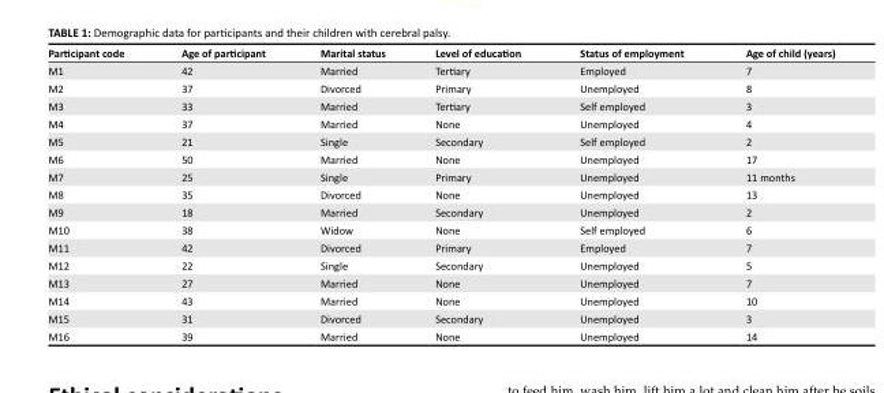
<table><thead><tr><td>Participant code</td><td>Age of participant</td><td>Marital status</td><td>Level of education</td><td>Status of employment</td><td>Age of child (years)</td></tr></thead><tbody><tr><td>M1</td><td>42</td><td>Married</td><td>Tertiary</td><td>Employed</td><td>7</td></tr><tr><td>M2</td><td>37</td><td>Divorced</td><td>Primary</td><td>Unemployed</td><td>8</td></tr><tr><td>M3</td><td>33</td><td>Married</td><td>Tertiary</td><td>Self employed</td><td>3</td></tr><tr><td>M4</td><td>37</td><td>Married</td><td>None</td><td>Unemployed</td><td>4</td></tr><tr><td>M5</td><td>21</td><td>Single</td><td>Secondary</td><td>Self employed</td><td>2</td></tr><tr><td>M6</td><td>50</td><td>Married</td><td>None</td><td>Unemployed</td><td>17</td></tr><tr><td>M7</td><td>25</td><td>Single</td><td>Primary</td><td>Unemployed</td><td>11 months</td></tr><tr><td>M8</td><td>35</td><td>Divorced</td><td>None</td><td>Unemployed</td><td>13</td></tr><tr><td>M9</td><td>18</td><td>Married</td><td>Secondary</td><td>Unemployed</td><td>2</td></tr><tr><td>M10</td><td>38</td><td>Widow</td><td>None</td><td>Self employed</td><td>6</td></tr><tr><td>M11</td><td>42</td><td>Divorced</td><td>Primary</td><td>Employed</td><td>7</td></tr><tr><td>M12</td><td>22</td><td>Single</td><td>Secondary</td><td>Unemployed</td><td>5</td></tr><tr><td>M13</td><td>27</td><td>Married</td><td>None</td><td>Unemployed</td><td>7</td></tr><tr><td>M14</td><td>43</td><td>Married</td><td>None</td><td>Unemployed</td><td>10</td></tr><tr><td>M15</td><td>31</td><td>Divorced</td><td>Secondary</td><td>Unemployed</td><td>3</td></tr><tr><td>M16</td><td>39</td><td>Married</td><td>None</td><td>Unemployed</td><td>14</td></tr></tbody></table>